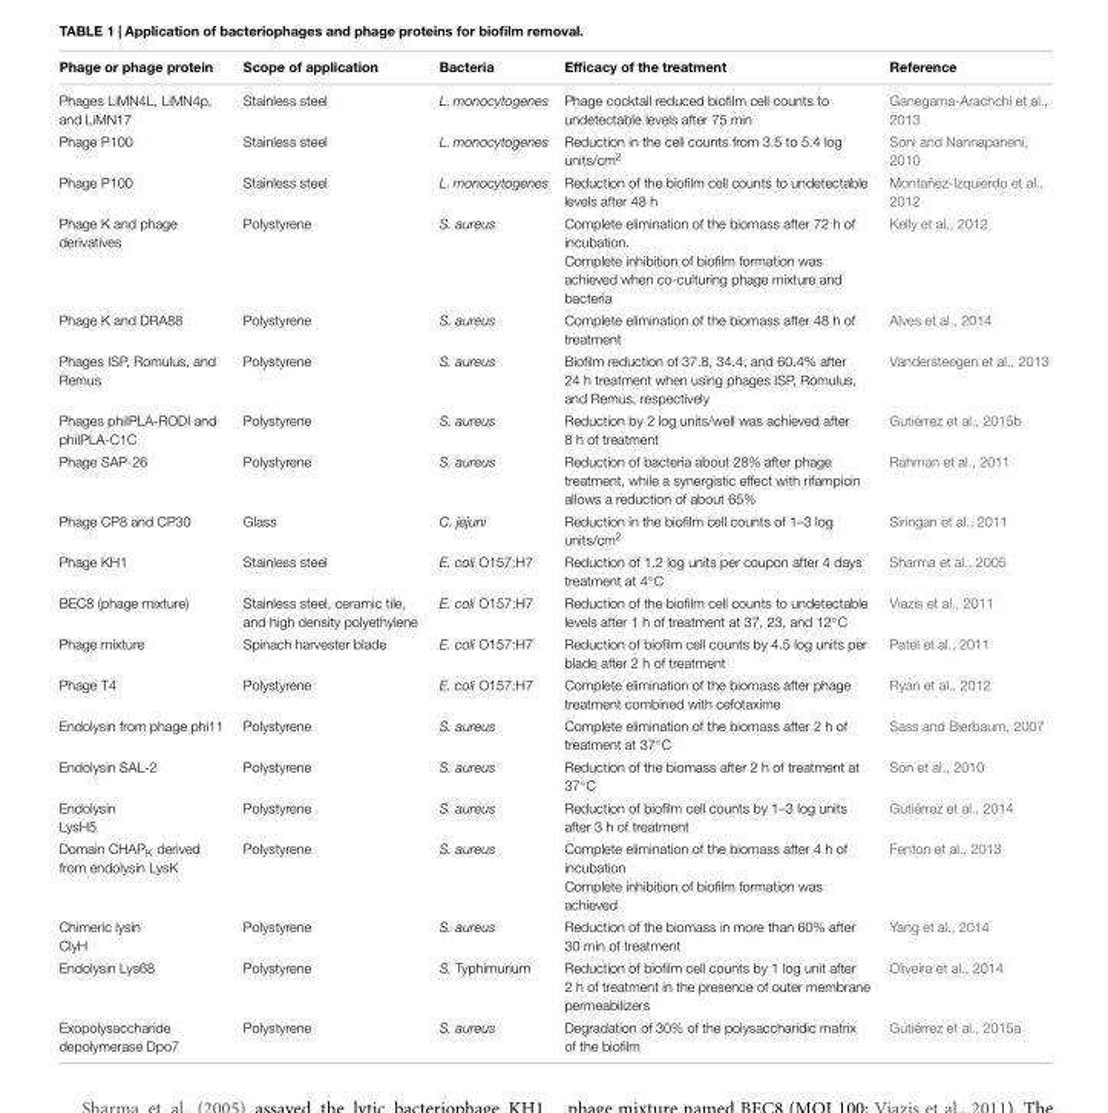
<table><thead><tr><td>Phage or phage protein</td><td>Scope of application</td><td>Bacteria</td><td>Efficacy of the treatment</td><td>Reference</td></tr></thead><tbody><tr><td>Phages LiMN4L, LiMN4p, and LiMN17</td><td>Stainless steel</td><td>L. monocytogenes</td><td>Phage cocktail reduced biofilm cell counts to undetectable levels after 75 min</td><td>Ganegama-Arachchi et al., 2013</td></tr><tr><td>Phage P100</td><td>Stainless steel</td><td>L. monocytogenes</td><td>Reduction in the cell counts from 3.5 to 5.4 log units/cm<sup>2</sup></td><td>Soni and Nannapaneni, 2010</td></tr><tr><td>Phage P100</td><td>Stainless steel</td><td>L. monocytogenes</td><td>Reduction of the biofilm cell counts to undetectable levels after 48 h</td><td>Montañez-Izquierdo et al., 2012</td></tr><tr><td>Phage K and phage derivatives</td><td>Polystyrene</td><td>S. aureus</td><td>Complete elimination of the biomass after 72 h of incubation. Complete inhibition of biofilm formation was achieved when co-culturing phage mixture and bacteria</td><td>Kelly et al., 2012</td></tr><tr><td>Phage K and DRA88</td><td>Polystyrene</td><td>S. aureus</td><td>Complete elimination of the biomass after 48 h of treatment</td><td>Alves et al., 2014</td></tr><tr><td>Phages ISP, Romulus, and Remus</td><td>Polystyrene</td><td>S. aureus</td><td>Biofilm reduction of 37.8, 34.4, and 60.4% after 24 h treatment when using phages ISP, Romulus, and Remus, respectively</td><td>Vandersteegen et al., 2013</td></tr><tr><td>Phages phiIPLA-RODI and phiIPLA-C1C</td><td>Polystyrene</td><td>S. aureus</td><td>Reduction by 2 log units/well was achieved after 8 h of treatment</td><td>Gutiérrez et al., 2015b</td></tr><tr><td>Phage SAP-26</td><td>Polystyrene</td><td>S. aureus</td><td>Reduction of bacteria about 28% after phage treatment, while a synergistic effect with rifampicin allows a reduction of about 65%</td><td>Rahman et al., 2011</td></tr><tr><td>Phage CP8 and CP30</td><td>Glass</td><td>C. jejuni</td><td>Reduction in the biofilm cell counts of 1–3 log units/cm<sup>2</sup></td><td>Siringan et al., 2011</td></tr><tr><td>Phage KH1</td><td>Stainless steel</td><td>E. coli O157:H7</td><td>Reduction of 1.2 log units per coupon after 4 days treatment at 4◦C</td><td>Sharma et al., 2005</td></tr><tr><td>BEC8 (phage mixture)</td><td>Stainless steel, ceramic tile, and high density polyethylene</td><td>E. coli O157:H7</td><td>Reduction of the biofilm cell counts to undetectable levels after 1 h of treatment at 37, 23, and 12◦C</td><td>Viazis et al., 2011</td></tr><tr><td>Phage mixture</td><td>Spinach harvester blade</td><td>E. coli O157:H7</td><td>Reduction of biofilm cell counts by 4.5 log units per blade after 2 h of treatment</td><td>Patel et al., 2011</td></tr><tr><td>Phage T4</td><td>Polystyrene</td><td>E. coli O157:H7</td><td>Complete elimination of the biomass after phage treatment combined with cefotaxime</td><td>Ryan et al., 2012</td></tr><tr><td>Endolysin from phage phi11</td><td>Polystyrene</td><td>S. aureus</td><td>Complete elimination of the biomass after 2 h of treatment at 37◦C</td><td>Sass and Bierbaum, 2007</td></tr><tr><td>Endolysin SAL-2</td><td>Polystyrene</td><td>S. aureus</td><td>Reduction of the biomass after 2 h of treatment at 37◦C</td><td>Son et al., 2010</td></tr><tr><td>Endolysin LysH5</td><td>Polystyrene</td><td>S. aureus</td><td>Reduction of biofilm cell counts by 1–3 log units after 3 h of treatment</td><td>Gutiérrez et al., 2014</td></tr><tr><td>Domain CHAP<sub>K</sub> derived from endolysin LysK</td><td>Polystyrene</td><td>S. aureus</td><td>Complete elimination of the biomass after 4 h of incubation Complete inhibition of biofilm formation was achieved</td><td>Fenton et al., 2013</td></tr><tr><td>Chimeric lysin ClyH</td><td>Polystyrene</td><td>S. aureus</td><td>Reduction of the biomass in more than 60% after 30 min of treatment</td><td>Yang et al., 2014</td></tr><tr><td>Endolysin Lys68</td><td>Polystyrene</td><td>S. Typhimurium</td><td>Reduction of biofilm cell counts by 1 log unit after 2 h of treatment in the presence of outer membrane permeabilizers</td><td>Oliveira et al., 2014</td></tr><tr><td>Exopolysaccharide depolymerase Dpo7</td><td>Polystyrene</td><td>S. aureus</td><td>Degradation of 30% of the polysaccharidic matrix of the biofilm</td><td>Gutiérrez et al., 2015a</td></tr></tbody></table>